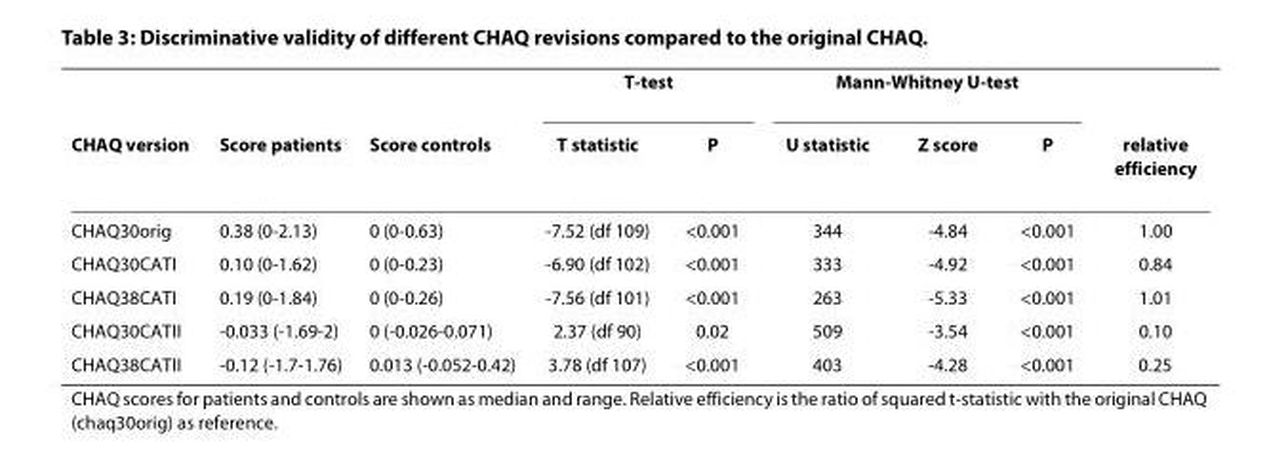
<table><thead><tr><td rowspan="2">CHAQ version</td><td rowspan="2">Score patients</td><td rowspan="2">Score controls</td><td colspan="2">T-test</td><td colspan="3">Mann-Whitney U-test</td><td rowspan="2">relative efficiency</td></tr><tr><td>T statistic</td><td>P</td><td>U statistic</td><td>Z score</td><td>P</td></tr></thead><tbody><tr><td>CHAQ30orig</td><td>0.38 (0-2.13)</td><td>0 (0-0.63)</td><td>-7.52 (df 109)</td><td>&lt;0.001</td><td>344</td><td>-4.84</td><td>&lt;0.001</td><td>1.00</td></tr><tr><td>CHAQ30CATI</td><td>0.10 (0-1.62)</td><td>0 (0-0.23)</td><td>-6.90 (df 102)</td><td>&lt;0.001</td><td>333</td><td>-4.92</td><td>&lt;0.001</td><td>0.84</td></tr><tr><td>CHAQ38CATI</td><td>0.19 (0-1.84)</td><td>0 (0-0.26)</td><td>-7.56 (df 101)</td><td>&lt;0.001</td><td>263</td><td>-5.33</td><td>&lt;0.001</td><td>1.01</td></tr><tr><td>CHAQ30CATII</td><td>-0.033 (-1.69-2)</td><td>0 (-0.026-0.071)</td><td>2.37 (df 90)</td><td>0.02</td><td>509</td><td>-3.54</td><td>&lt;0.001</td><td>0.10</td></tr><tr><td>CHAQ38CATII</td><td>-0.12 (-1.7-1.76)</td><td>0.013 (-0.052-0.42)</td><td>3.78 (df 107)</td><td>&lt;0.001</td><td>403</td><td>-4.28</td><td>&lt;0.001</td><td>0.25</td></tr></tbody></table>